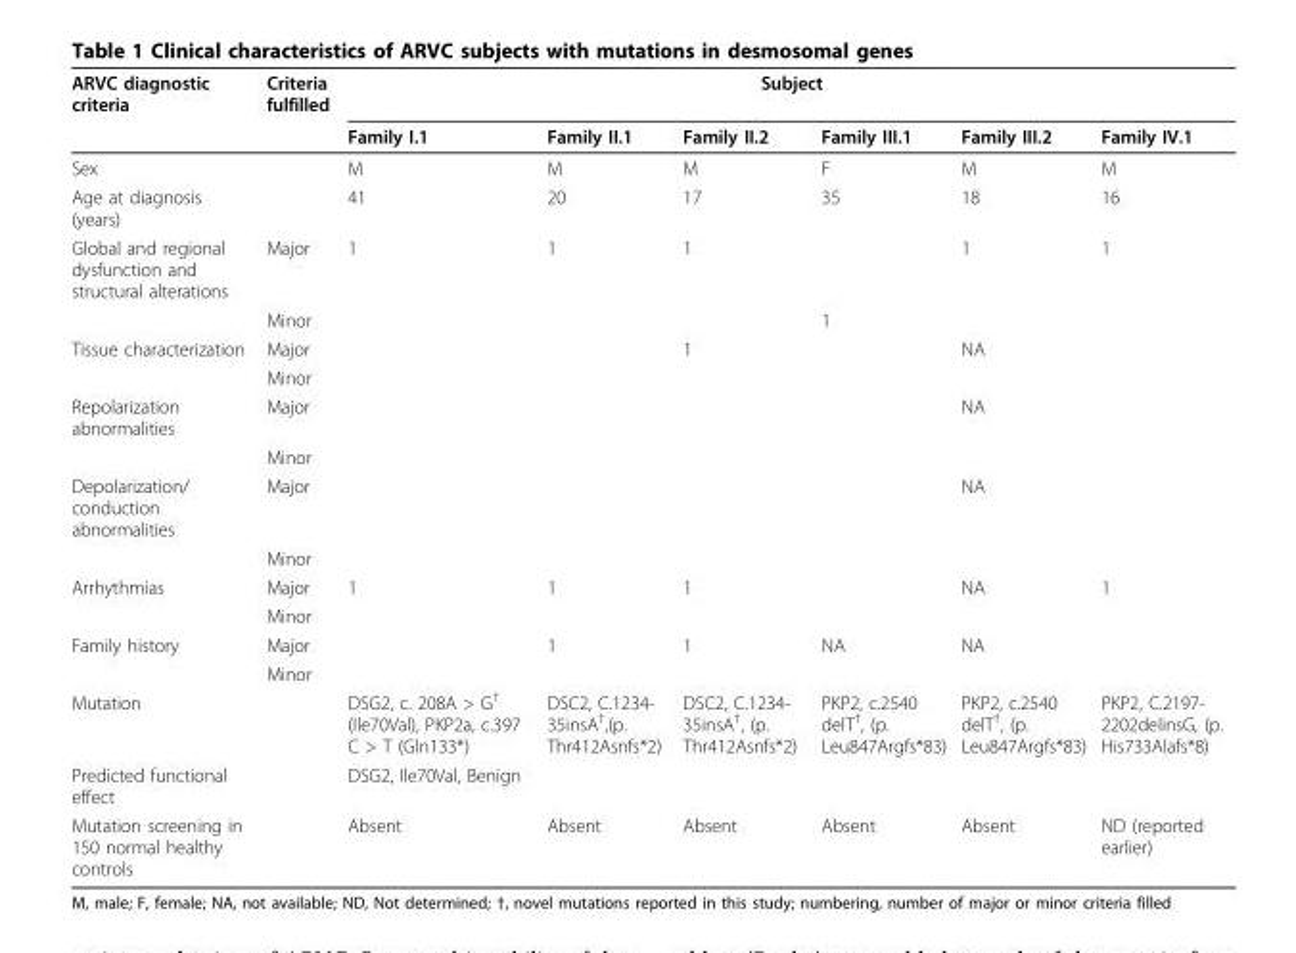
<table><thead><tr><td rowspan="2">ARVC diagnostic criteria</td><td rowspan="2">Criteria fulfilled</td><td colspan="6">Subject</td></tr><tr><td>Family I.1</td><td>Family II.1</td><td>Family II.2</td><td>Family III.1</td><td>Family III.2</td><td>Family IV.1</td></tr></thead><tbody><tr><td>Sex</td><td></td><td>M</td><td>M</td><td>M</td><td>F</td><td>M</td><td>M</td></tr><tr><td>Age at diagnosis (years)</td><td></td><td>41</td><td>20</td><td>17</td><td>35</td><td>18</td><td>16</td></tr><tr><td rowspan="2">Global and regional dysfunction and structural alterations</td><td>Major</td><td>1</td><td>1</td><td>1</td><td></td><td>1</td><td>1</td></tr><tr><td>Minor</td><td></td><td></td><td></td><td>1</td><td></td><td></td></tr><tr><td rowspan="2">Tissue characterization</td><td>Major</td><td></td><td></td><td>1</td><td></td><td>NA</td><td></td></tr><tr><td>Minor</td><td></td><td></td><td></td><td></td><td></td><td></td></tr><tr><td rowspan="2">Repolarization abnormalities</td><td>Major</td><td></td><td></td><td></td><td></td><td>NA</td><td></td></tr><tr><td>Minor</td><td></td><td></td><td></td><td></td><td></td><td></td></tr><tr><td rowspan="2">Depolarization/ conduction abnormalities</td><td>Major</td><td></td><td></td><td></td><td></td><td>NA</td><td></td></tr><tr><td>Minor</td><td></td><td></td><td></td><td></td><td></td><td></td></tr><tr><td rowspan="2">Arrhythmias</td><td>Major</td><td>1</td><td>1</td><td>1</td><td></td><td>NA</td><td>1</td></tr><tr><td>Minor</td><td></td><td></td><td></td><td></td><td></td><td></td></tr><tr><td rowspan="2">Family history</td><td>Major</td><td></td><td>1</td><td>1</td><td>NA</td><td>NA</td><td></td></tr><tr><td>Minor</td><td></td><td></td><td></td><td></td><td></td><td></td></tr><tr><td>Mutation</td><td></td><td>DSG2, c. 208A &gt; G<sup>†</sup> (Ile70Val), PKP2a, c.397 C &gt; T (Gln133*)</td><td>DSC2, C.1234- 35insA<sup>†</sup>,(p. Thr412Asnfs*2)</td><td>DSC2, C.1234- 35insA<sup>†</sup>, (p. Thr412Asnfs*2)</td><td>PKP2, c.2540 delT<sup>†</sup>, (p. Leu847Argfs*83)</td><td>PKP2, c.2540 delT<sup>†</sup>, (p. Leu847Argfs*83)</td><td>PKP2, C.2197- 2202delinsG, (p. His733Alafs*8)</td></tr><tr><td>Predicted functional effect</td><td></td><td>DSG2, Ile70Val, Benign</td><td></td><td></td><td></td><td></td><td></td></tr><tr><td>Mutation screening in 150 normal healthy controls</td><td></td><td>Absent</td><td>Absent</td><td>Absent</td><td>Absent</td><td>Absent</td><td>ND (reported earlier)</td></tr></tbody></table>